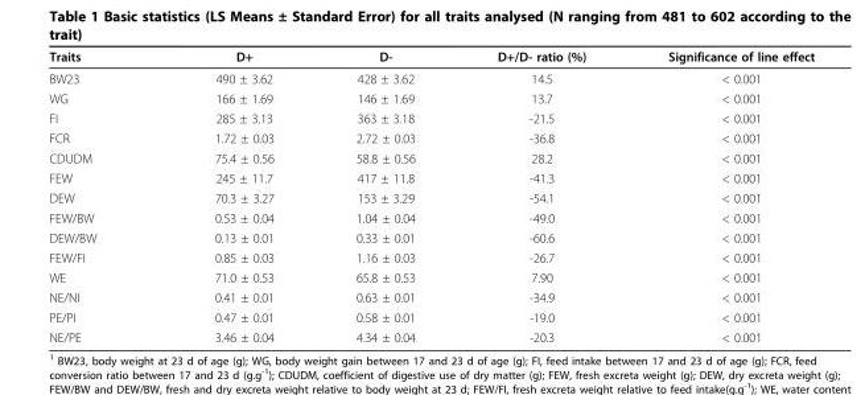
<table><thead><tr><td>Traits</td><td>D+</td><td>D-</td><td>D+/D- ratio (%)</td><td>Significance of line effect</td></tr></thead><tbody><tr><td>BW23</td><td>490 ± 3.62</td><td>428 ± 3.62</td><td>14.5</td><td>&lt; 0.001</td></tr><tr><td>WG</td><td>166 ± 1.69</td><td>146 ± 1.69</td><td>13.7</td><td>&lt; 0.001</td></tr><tr><td>FI</td><td>285 ± 3.13</td><td>363 ± 3.18</td><td>-21.5</td><td>&lt; 0.001</td></tr><tr><td>FCR</td><td>1.72 ± 0.03</td><td>2.72 ± 0.03</td><td>-36.8</td><td>&lt; 0.001</td></tr><tr><td>CDUDM</td><td>75.4 ± 0.56</td><td>58.8 ± 0.56</td><td>28.2</td><td>&lt; 0.001</td></tr><tr><td>FEW</td><td>245 ± 11.7</td><td>417 ± 11.8</td><td>-41.3</td><td>&lt; 0.001</td></tr><tr><td>DEW</td><td>70.3 ± 3.27</td><td>153 ± 3.29</td><td>-54.1</td><td>&lt; 0.001</td></tr><tr><td>FEW/BW</td><td>0.53 ± 0.04</td><td>1.04 ± 0.04</td><td>-49.0</td><td>&lt; 0.001</td></tr><tr><td>DEW/BW</td><td>0.13 ± 0.01</td><td>0.33 ± 0.01</td><td>-60.6</td><td>&lt; 0.001</td></tr><tr><td>FEW/FI</td><td>0.85 ± 0.03</td><td>1.16 ± 0.03</td><td>-26.7</td><td>&lt; 0.001</td></tr><tr><td>WE</td><td>71.0 ± 0.53</td><td>65.8 ± 0.53</td><td>7.90</td><td>&lt; 0.001</td></tr><tr><td>NE/NI</td><td>0.41 ± 0.01</td><td>0.63 ± 0.01</td><td>-34.9</td><td>&lt; 0.001</td></tr><tr><td>PE/PI</td><td>0.47 ± 0.01</td><td>0.58 ± 0.01</td><td>-19.0</td><td>&lt; 0.001</td></tr><tr><td>NE/PE</td><td>3.46 ± 0.04</td><td>4.34 ± 0.04</td><td>-20.3</td><td>&lt; 0.001</td></tr></tbody></table>